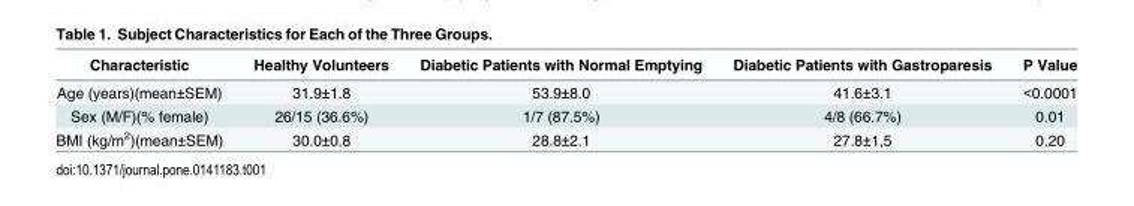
<table><thead><tr><td>Characteristic</td><td>Healthy Volunteers</td><td>Diabetic Patients with Normal Emptying</td><td>Diabetic Patients with Gastroparesis</td><td>P Value</td></tr></thead><tbody><tr><td>Age (years)(mean±SEM)</td><td>31.9±1.8</td><td>53.9±8.0</td><td>41.6±3.1</td><td>&lt;0.0001</td></tr><tr><td>Sex (M/F)(% female)</td><td>26/15 (36.6%)</td><td>1/7 (87.5%)</td><td>4/8 (66.7%)</td><td>0.01</td></tr><tr><td>BMI (kg/m<sup>2</sup>)(mean±SEM)</td><td>30.0±0.8</td><td>28.8±2.1</td><td>27.8±1,5</td><td>0.20</td></tr></tbody></table>